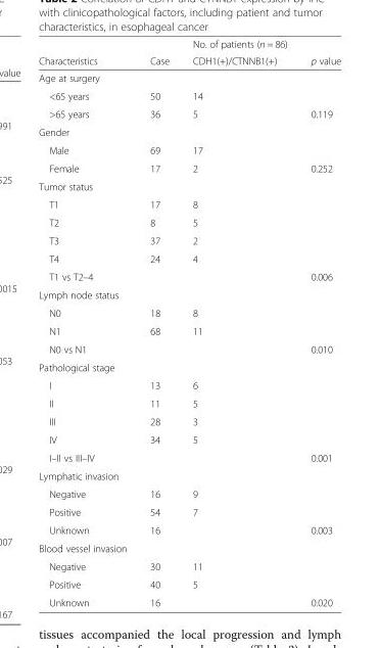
<table><thead><tr><td rowspan="2">Characteristics</td><td rowspan="2">Case</td><td rowspan="2">No. of patients (n = 86) CDH1(+)/CTNNB1(+)</td><td rowspan="2">p value</td></tr><tr></tr></thead><tbody><tr><td colspan="4">Age at surgery</td></tr><tr><td>&lt;65 years</td><td>50</td><td>14</td><td></td></tr><tr><td>&gt;65 years</td><td>36</td><td>5</td><td>0.119</td></tr><tr><td colspan="4">Gender</td></tr><tr><td>Male</td><td>69</td><td>17</td><td></td></tr><tr><td>Female</td><td>17</td><td>2</td><td>0.252</td></tr><tr><td colspan="4">Tumor status</td></tr><tr><td>T1</td><td>17</td><td>8</td><td></td></tr><tr><td>T2</td><td>8</td><td>5</td><td></td></tr><tr><td>T3</td><td>37</td><td>2</td><td></td></tr><tr><td>T4</td><td>24</td><td>4</td><td></td></tr><tr><td>T1 vs T2–4</td><td></td><td></td><td>0.006</td></tr><tr><td colspan="4">Lymph node status</td></tr><tr><td>N0</td><td>18</td><td>8</td><td></td></tr><tr><td>N1</td><td>68</td><td>11</td><td></td></tr><tr><td>N0 vs N1</td><td></td><td></td><td>0.010</td></tr><tr><td colspan="4">Pathological stage</td></tr><tr><td>I</td><td>13</td><td>6</td><td></td></tr><tr><td>II</td><td>11</td><td>5</td><td></td></tr><tr><td>III</td><td>28</td><td>3</td><td></td></tr><tr><td>IV</td><td>34</td><td>5</td><td></td></tr><tr><td>I–II vs III–IV</td><td></td><td></td><td>0.001</td></tr><tr><td colspan="4">Lymphatic invasion</td></tr><tr><td>Negative</td><td>16</td><td>9</td><td></td></tr><tr><td>Positive</td><td>54</td><td>7</td><td></td></tr><tr><td>Unknown</td><td>16</td><td></td><td>0.003</td></tr><tr><td colspan="4">Blood vessel invasion</td></tr><tr><td>Negative</td><td>30</td><td>11</td><td></td></tr><tr><td>Positive</td><td>40</td><td>5</td><td></td></tr><tr><td>Unknown</td><td>16</td><td></td><td>0.020</td></tr></tbody></table>